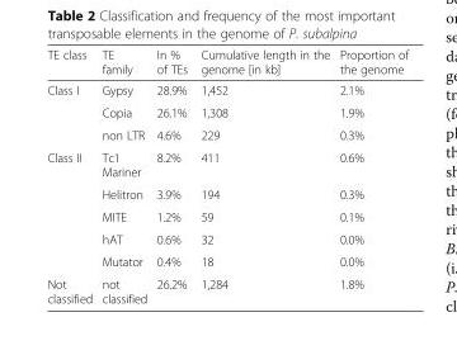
<table><thead><tr><td>TE class</td><td>TE family</td><td>In % of TEs</td><td>Cumulative length in the genome [in kb]</td><td>Proportion of the genome</td></tr></thead><tbody><tr><td rowspan="3">Class I</td><td>Gypsy</td><td>28.9%</td><td>1,452</td><td>2.1%</td></tr><tr><td>Copia</td><td>26.1%</td><td>1,308</td><td>1.9%</td></tr><tr><td>non LTR</td><td>4.6%</td><td>229</td><td>0.3%</td></tr><tr><td rowspan="5">Class II</td><td>Tc1 Mariner</td><td>8.2%</td><td>411</td><td>0.6%</td></tr><tr><td>Helitron</td><td>3.9%</td><td>194</td><td>0.3%</td></tr><tr><td>MITE</td><td>1.2%</td><td>59</td><td>0.1%</td></tr><tr><td>hAT</td><td>0.6%</td><td>32</td><td>0.0%</td></tr><tr><td>Mutator</td><td>0.4%</td><td>18</td><td>0.0%</td></tr><tr><td>Not classified</td><td>not classified</td><td>26.2%</td><td>1,284</td><td>1.8%</td></tr></tbody></table>